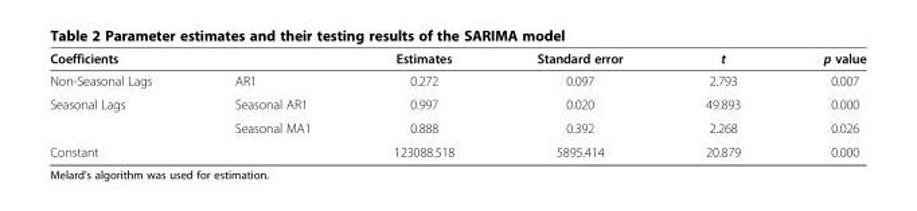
<table><thead><tr><td colspan="2">Coefficients</td><td rowspan="2">Estimates 0.272</td><td rowspan="2">Standard error 0.097</td><td rowspan="2">t 2.793</td><td rowspan="2">p value 0.007</td></tr><tr><td>Non-Seasonal Lags</td><td>AR1</td></tr></thead><tbody><tr><td rowspan="2">Seasonal Lags</td><td>Seasonal AR1</td><td>0.997</td><td>0.020</td><td>49.893</td><td>0.000</td></tr><tr><td>Seasonal MA1</td><td>0.888</td><td>0.392</td><td>2.268</td><td>0.026</td></tr><tr><td colspan="2">Constant</td><td>123088.518</td><td>5895.414</td><td>20.879</td><td>0.000</td></tr></tbody></table>